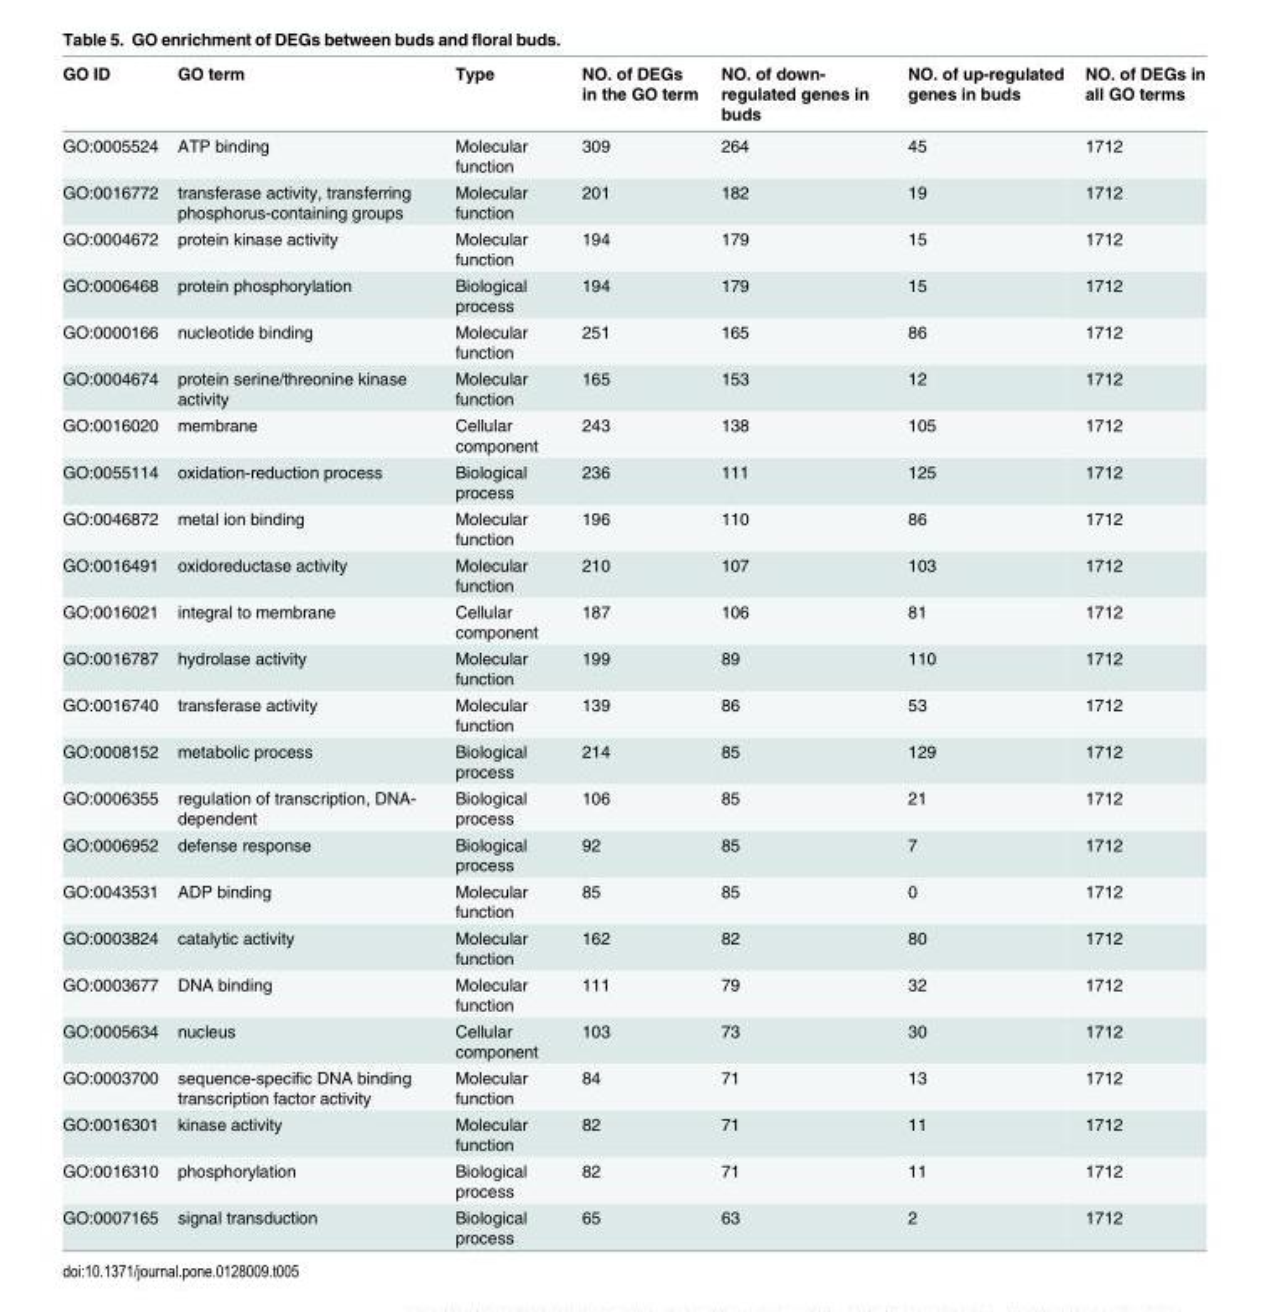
<table><thead><tr><td>GO ID</td><td>GO term</td><td>Type</td><td>NO. of DEGs in the GO term</td><td>NO. of down- regulated genes in buds</td><td>NO. of up-regulated genes in buds</td><td>NO. of DEGs in all GO terms</td></tr></thead><tbody><tr><td>GO:0005524</td><td>ATP binding</td><td>Molecular function</td><td>309</td><td>264</td><td>45</td><td>1712</td></tr><tr><td>GO:0016772</td><td>transferase activity, transferring phosphorus-containing groups</td><td>Molecular function</td><td>201</td><td>182</td><td>19</td><td>1712</td></tr><tr><td>GO:0004672</td><td>protein kinase activity</td><td>Molecular function</td><td>194</td><td>179</td><td>15</td><td>1712</td></tr><tr><td>GO:0006468</td><td>protein phosphorylation</td><td>Biological process</td><td>194</td><td>179</td><td>15</td><td>1712</td></tr><tr><td>GO:0000166</td><td>nucleotide binding</td><td>Molecular function</td><td>251</td><td>165</td><td>86</td><td>1712</td></tr><tr><td>GO:0004674</td><td>protein serine/threonine kinase activity</td><td>Molecular function</td><td>165</td><td>153</td><td>12</td><td>1712</td></tr><tr><td>GO:0016020</td><td>membrane</td><td>Cellular component</td><td>243</td><td>138</td><td>105</td><td>1712</td></tr><tr><td>GO:0055114</td><td>oxidation-reduction process</td><td>Biological process</td><td>236</td><td>111</td><td>125</td><td>1712</td></tr><tr><td>GO:0046872</td><td>metal ion binding</td><td>Molecular function</td><td>196</td><td>110</td><td>86</td><td>1712</td></tr><tr><td>GO:0016491</td><td>oxidoreductase activity</td><td>Molecular function</td><td>210</td><td>107</td><td>103</td><td>1712</td></tr><tr><td>GO:0016021</td><td>integral to membrane</td><td>Cellular component</td><td>187</td><td>106</td><td>81</td><td>1712</td></tr><tr><td>GO:0016787</td><td>hydrolase activity</td><td>Molecular function</td><td>199</td><td>89</td><td>110</td><td>1712</td></tr><tr><td>GO:0016740</td><td>transferase activity</td><td>Molecular function</td><td>139</td><td>86</td><td>53</td><td>1712</td></tr><tr><td>GO:0008152</td><td>metabolic process</td><td>Biological process</td><td>214</td><td>85</td><td>129</td><td>1712</td></tr><tr><td>GO:0006355</td><td>regulation of transcription, DNA- dependent</td><td>Biological process</td><td>106</td><td>85</td><td>21</td><td>1712</td></tr><tr><td>GO:0006952</td><td>defense response</td><td>Biological process</td><td>92</td><td>85</td><td>7</td><td>1712</td></tr><tr><td>GO:0043531</td><td>ADP binding</td><td>Molecular function</td><td>85</td><td>85</td><td>0</td><td>1712</td></tr><tr><td>GO:0003824</td><td>catalytic activity</td><td>Molecular function</td><td>162</td><td>82</td><td>80</td><td>1712</td></tr><tr><td>GO:0003677</td><td>DNA binding</td><td>Molecular function</td><td>111</td><td>79</td><td>32</td><td>1712</td></tr><tr><td>GO:0005634</td><td>nucleus</td><td>Cellular component</td><td>103</td><td>73</td><td>30</td><td>1712</td></tr><tr><td>GO:0003700</td><td>sequence-specific DNA binding transcription factor activity</td><td>Molecular function</td><td>84</td><td>71</td><td>13</td><td>1712</td></tr><tr><td>GO:0016301</td><td>kinase activity</td><td>Molecular function</td><td>82</td><td>71</td><td>11</td><td>1712</td></tr><tr><td>GO:0016310</td><td>phosphorylation</td><td>Biological process</td><td>82</td><td>71</td><td>11</td><td>1712</td></tr><tr><td>GO:0007165</td><td>signal transduction</td><td>Biological process</td><td>65</td><td>63</td><td>2</td><td>1712</td></tr></tbody></table>